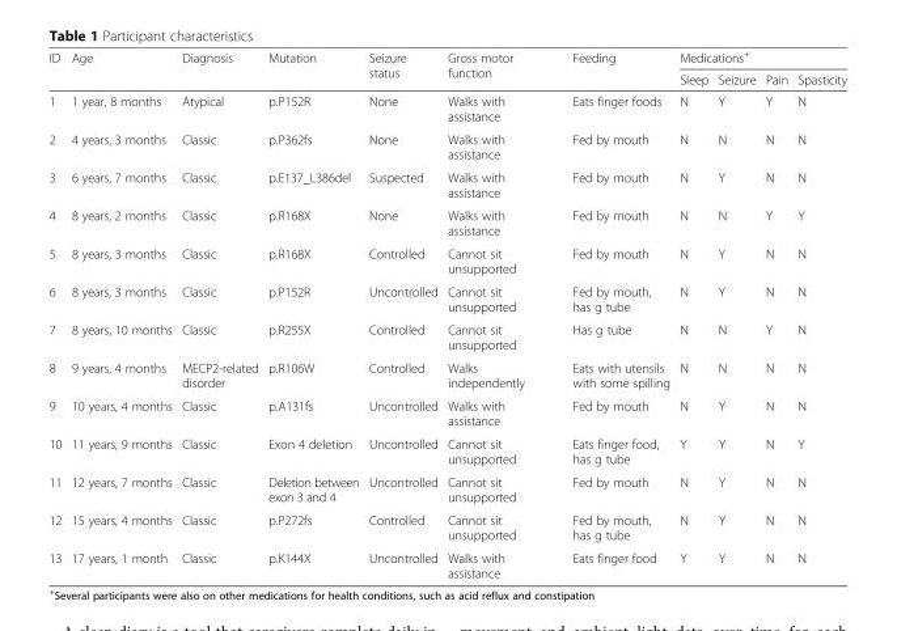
<table><thead><tr><td rowspan="2">ID</td><td rowspan="2">Age</td><td rowspan="2">Diagnosis</td><td rowspan="2">Mutation</td><td rowspan="2">Seizure status</td><td rowspan="2">Gross motor function</td><td rowspan="2">Feeding</td><td colspan="4">Medications<sup>+</sup></td></tr><tr><td>Sleep</td><td>Seizure</td><td>Pain</td><td>Spasticity</td></tr></thead><tbody><tr><td>1</td><td>1 year, 8 months</td><td>Atypical</td><td>p.P152R</td><td>None</td><td>Walks with assistance</td><td>Eats finger foods</td><td>N</td><td>Y</td><td>Y</td><td>N</td></tr><tr><td>2</td><td>4 years, 3 months</td><td>Classic</td><td>p.P362fs</td><td>None</td><td>Walks with assistance</td><td>Fed by mouth</td><td>N</td><td>N</td><td>N</td><td>N</td></tr><tr><td>3</td><td>6 years, 7 months</td><td>Classic</td><td>p.E137_L386del</td><td>Suspected</td><td>Walks with assistance</td><td>Fed by mouth</td><td>N</td><td>Y</td><td>N</td><td>N</td></tr><tr><td>4</td><td>8 years, 2 months</td><td>Classic</td><td>p.R168X</td><td>None</td><td>Walks with assistance</td><td>Fed by mouth</td><td>N</td><td>N</td><td>Y</td><td>Y</td></tr><tr><td>5</td><td>8 years, 3 months</td><td>Classic</td><td>p.R168X</td><td>Controlled</td><td>Cannot sit unsupported</td><td>Fed by mouth</td><td>N</td><td>Y</td><td>N</td><td>N</td></tr><tr><td>6</td><td>8 years, 3 months</td><td>Classic</td><td>p.P152R</td><td>Uncontrolled</td><td>Cannot sit unsupported</td><td>Fed by mouth, has g tube</td><td>N</td><td>Y</td><td>N</td><td>N</td></tr><tr><td>7</td><td>8 years, 10 months</td><td>Classic</td><td>p.R255X</td><td>Controlled</td><td>Cannot sit unsupported</td><td>Has g tube</td><td>N</td><td>N</td><td>Y</td><td>N</td></tr><tr><td>8</td><td>9 years, 4 months</td><td>MECP2-related disorder</td><td>p.R106W</td><td>Controlled</td><td>Walks independently</td><td>Eats with utensils with some spilling</td><td>N</td><td>N</td><td>N</td><td>N</td></tr><tr><td>9</td><td>10 years, 4 months</td><td>Classic</td><td>p.A131fs</td><td>Uncontrolled</td><td>Walks with assistance</td><td>Fed by mouth</td><td>N</td><td>Y</td><td>N</td><td>N</td></tr><tr><td>10</td><td>11 years, 9 months</td><td>Classic</td><td>Exon 4 deletion</td><td>Uncontrolled</td><td>Cannot sit unsupported</td><td>Eats finger food, has g tube</td><td>Y</td><td>Y</td><td>N</td><td>Y</td></tr><tr><td>11</td><td>12 years, 7 months</td><td>Classic</td><td>Deletion between exon 3 and 4</td><td>Uncontrolled</td><td>Cannot sit unsupported</td><td>Fed by mouth</td><td>N</td><td>Y</td><td>N</td><td>N</td></tr><tr><td>12</td><td>15 years, 4 months</td><td>Classic</td><td>p.P272fs</td><td>Controlled</td><td>Cannot sit unsupported</td><td>Fed by mouth, has g tube</td><td>N</td><td>Y</td><td>N</td><td>N</td></tr><tr><td>13</td><td>17 years, 1 month</td><td>Classic</td><td>p.K144X</td><td>Uncontrolled</td><td>Walks with assistance</td><td>Eats finger food</td><td>Y</td><td>Y</td><td>N</td><td>N</td></tr></tbody></table>